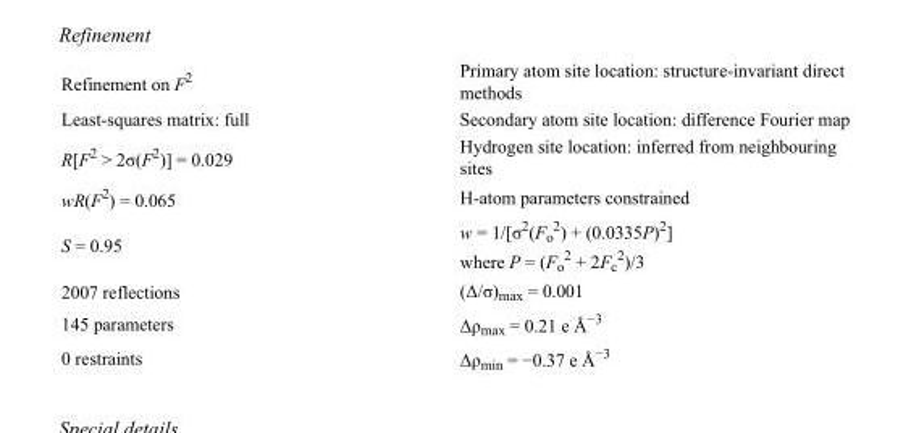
<table><tbody><tr><td>Refinement on F<sup>2</sup></td><td>Primary atom site location: structure-invariant direct methods</td></tr><tr><td>Least-squares matrix: full</td><td>Secondary atom site location: difference Fourier map</td></tr><tr><td>R[F<sup>2</sup> &gt; 2σ(F<sup>2</sup>)] = 0.029</td><td>Hydrogen site location: inferred from neighbouring sites</td></tr><tr><td>wR(F<sup>2</sup>) = 0.065</td><td>H-atom parameters constrained</td></tr><tr><td>S = 0.95</td><td>w = 1/[σ<sup>2</sup>(F<sub>o</sub> <sup>2</sup>) + (0.0335P)<sup>2</sup>] where P = (F<sub>o</sub> <sup>2</sup> + 2F<sub>c</sub> <sup>2</sup>)/3</td></tr><tr><td>2007 reflections</td><td>(Δ/σ)<sub>max</sub> = 0.001</td></tr><tr><td>145 parameters</td><td>Δρ<sub>max</sub> = 0.21 e Å<sup>−3</sup></td></tr><tr><td>0 restraints</td><td>Δρ<sub>min</sub> = −0.37 e Å<sup>−3</sup></td></tr></tbody></table>